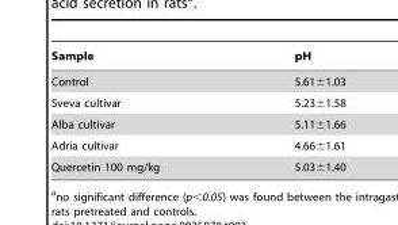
<table><thead><tr><td>Sample</td><td>pH</td></tr></thead><tbody><tr><td>Control</td><td>5.61±1.03</td></tr><tr><td>Sveva cultivar</td><td>5.23±1.58</td></tr><tr><td>Alba cultivar</td><td>5.11±1.66</td></tr><tr><td>Adria cultivar</td><td>4.66±1.61</td></tr><tr><td>Quercetin 100 mg/kg</td><td>5.03±1.40</td></tr></tbody></table>